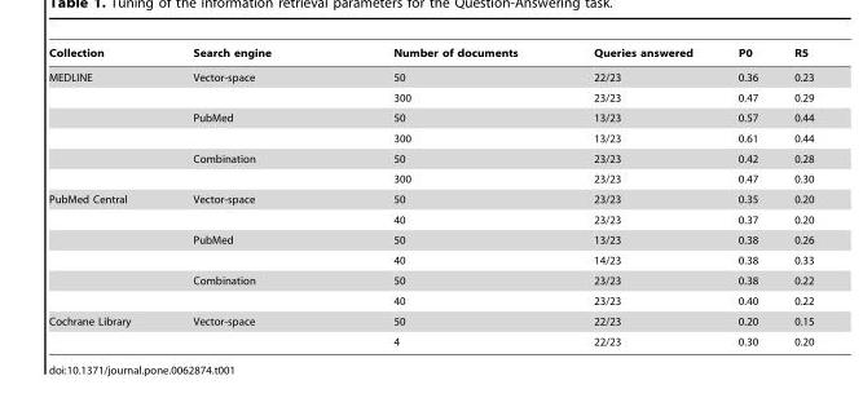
<table><thead><tr><td>Collection</td><td>Search engine</td><td>Number of documents</td><td>Queries answered</td><td>P0</td><td>R5</td></tr></thead><tbody><tr><td rowspan="6">MEDLINE</td><td>Vector-space</td><td>50</td><td>22/23</td><td>0.36</td><td>0.23</td></tr><tr><td></td><td>300</td><td>23/23</td><td>0.47</td><td>0.29</td></tr><tr><td>PubMed</td><td>50</td><td>13/23</td><td>0.57</td><td>0.44</td></tr><tr><td></td><td>300</td><td>13/23</td><td>0.61</td><td>0.44</td></tr><tr><td>Combination</td><td>50</td><td>23/23</td><td>0.42</td><td>0.28</td></tr><tr><td></td><td>300</td><td>23/23</td><td>0.47</td><td>0.30</td></tr><tr><td rowspan="6">PubMed Central</td><td>Vector-space</td><td>50</td><td>23/23</td><td>0.35</td><td>0.20</td></tr><tr><td></td><td>40</td><td>23/23</td><td>0.37</td><td>0.20</td></tr><tr><td>PubMed</td><td>50</td><td>13/23</td><td>0.38</td><td>0.26</td></tr><tr><td></td><td>40</td><td>14/23</td><td>0.38</td><td>0.33</td></tr><tr><td>Combination</td><td>50</td><td>23/23</td><td>0.38</td><td>0.22</td></tr><tr><td></td><td>40</td><td>23/23</td><td>0.40</td><td>0.22</td></tr><tr><td rowspan="2">Cochrane Library</td><td>Vector-space</td><td>50</td><td>22/23</td><td>0.20</td><td>0.15</td></tr><tr><td></td><td>4</td><td>22/23</td><td>0.30</td><td>0.20</td></tr></tbody></table>